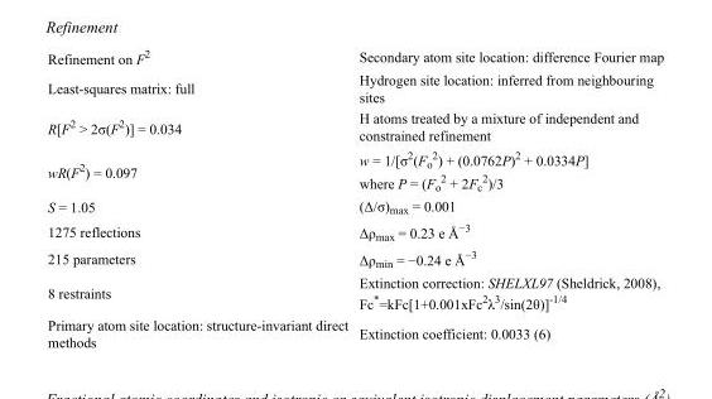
<table><tbody><tr><td>Refinement on F<sup>2</sup></td><td>Secondary atom site location: difference Fourier map</td></tr><tr><td>Least-squares matrix: full</td><td>Hydrogen site location: inferred from neighbouring sites</td></tr><tr><td>R[F<sup>2</sup> &gt; 2σ(F<sup>2</sup>)] = 0.034</td><td>H atoms treated by a mixture of independent and constrained refinement</td></tr><tr><td>wR(F<sup>2</sup>) = 0.097</td><td>w = 1/[σ<sup>2</sup>(F<sub>o</sub> <sup>2</sup>) + (0.0762P)<sup>2</sup> + 0.0334P] where P = (F<sub>o</sub> <sup>2</sup> + 2F<sub>c</sub> <sup>2</sup>)/3</td></tr><tr><td>S = 1.05</td><td>(Δ/σ)<sub>max</sub> = 0.001</td></tr><tr><td>1275 reflections</td><td>Δρ<sub>max</sub> = 0.23 e Å<sup>−3</sup></td></tr><tr><td>215 parameters</td><td>Δρ<sub>min</sub> = −0.24 e Å<sup>−3</sup></td></tr><tr><td>8 restraints</td><td>Extinction correction: SHELXL97 (Sheldrick, 2008), Fc*=kFc[1+0.001xFc<sup>2</sup>λ<sup>3</sup>/sin(2θ)]<sup>-1/4</sup></td></tr><tr><td>Primary atom site location: structure-invariant direct methods</td><td>Extinction coefficient: 0.0033 (6)</td></tr></tbody></table>